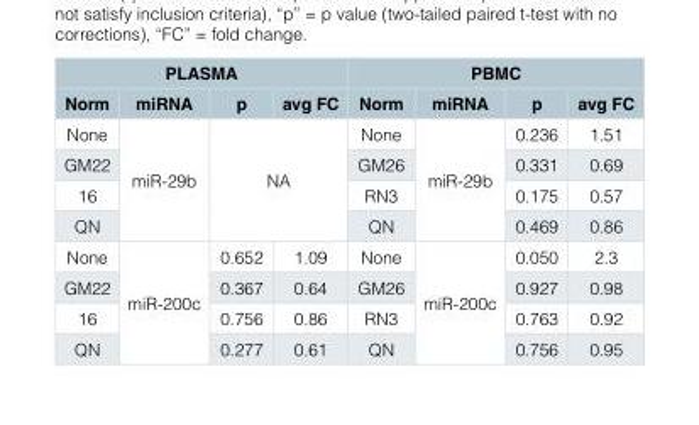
<table><thead><tr><td colspan="4">PLASMA</td><td colspan="4">PBMC</td></tr><tr><td>Norm</td><td>miRNA</td><td>p</td><td>avg FC</td><td>Norm</td><td>miRNA</td><td>p</td><td>avg FC</td></tr></thead><tbody><tr><td>None</td><td rowspan="4">miR-29b</td><td rowspan="4" colspan="2">NA</td><td>None</td><td rowspan="4">miR-29b</td><td>0.236</td><td>1.51</td></tr><tr><td>GM22</td><td>GM26</td><td>0.331</td><td>0.69</td></tr><tr><td>16</td><td>RN3</td><td>0.175</td><td>0.57</td></tr><tr><td>QN</td><td>QN</td><td>0.469</td><td>0.86</td></tr><tr><td>None</td><td rowspan="4">miR-200c</td><td>0.652</td><td>1.09</td><td>None</td><td rowspan="4">miR-200c</td><td>0.050</td><td>2.3</td></tr><tr><td>GM22</td><td>0.367</td><td>0.64</td><td>GM26</td><td>0.927</td><td>0.98</td></tr><tr><td>16</td><td>0.756</td><td>0.86</td><td>RN3</td><td>0.763</td><td>0.92</td></tr><tr><td>QN</td><td>0.277</td><td>0.61</td><td>QN</td><td>0.756</td><td>0.95</td></tr></tbody></table>